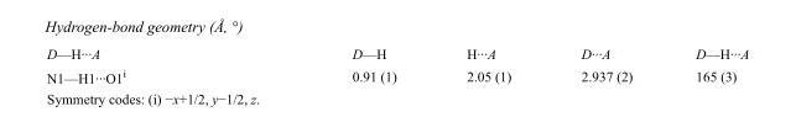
<table><tbody><tr><td>D—H···A</td><td>D—H</td><td>H···A</td><td>D···A</td><td>D—H···A</td></tr><tr><td>N1—H1···O1<sup>i</sup></td><td>0.91 (1)</td><td>2.05 (1)</td><td>2.937 (2)</td><td>165 (3)</td></tr></tbody></table>